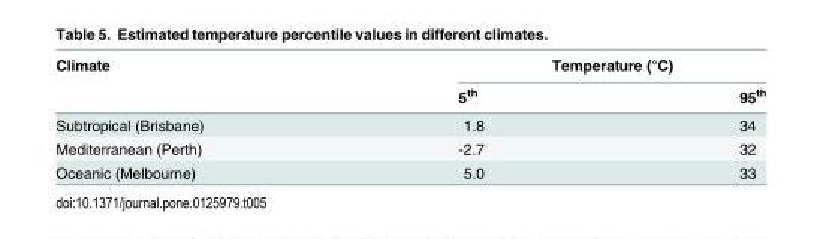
<table><thead><tr><td rowspan="2">Climate</td><td colspan="2">Temperature (°C)</td></tr><tr><td>5<sup>th</sup></td><td>95<sup>th</sup></td></tr></thead><tbody><tr><td>Subtropical (Brisbane)</td><td>1.8</td><td>34</td></tr><tr><td>Mediterranean (Perth)</td><td>-2.7</td><td>32</td></tr><tr><td>Oceanic (Melbourne)</td><td>5.0</td><td>33</td></tr></tbody></table>